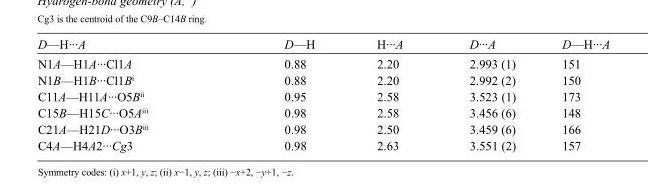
<table><tbody><tr><td>D—H···A</td><td>D—H</td><td>H···A</td><td>D···A</td><td>D—H···A</td></tr><tr><td>N1A—H1A···Cl1A</td><td>0.88</td><td>2.20</td><td>2.993 (1)</td><td>151</td></tr><tr><td>N1B—H1B···Cl1B<sup>i</sup></td><td>0.88</td><td>2.20</td><td>2.992 (2)</td><td>150</td></tr><tr><td>C11A—H11A···O5B<sup>ii</sup></td><td>0.95</td><td>2.58</td><td>3.523 (1)</td><td>173</td></tr><tr><td>C15B—H15C···O5A<sup>iii</sup></td><td>0.98</td><td>2.58</td><td>3.456 (6)</td><td>148</td></tr><tr><td>C21A—H21D···O3B<sup>iii</sup></td><td>0.98</td><td>2.50</td><td>3.459 (6)</td><td>166</td></tr><tr><td>C4A—H4A2···Cg3</td><td>0.98</td><td>2.63</td><td>3.551 (2)</td><td>157</td></tr></tbody></table>